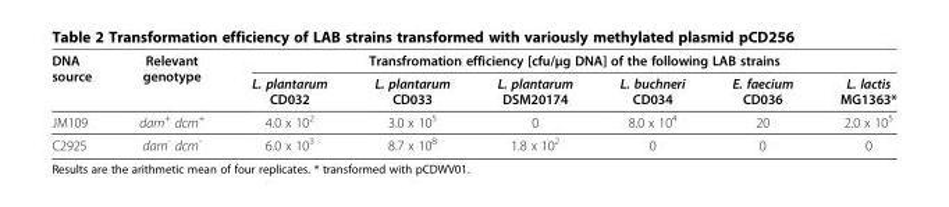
<table><thead><tr><td rowspan="2">DNA source</td><td rowspan="2">Relevant genotype</td><td colspan="6">Transfromation efficiency [cfu/μg DNA] of the following LAB strains</td></tr><tr><td>L. plantarum CD032</td><td>L. plantarum CD033</td><td>L. plantarum DSM20174</td><td>L. buchneri CD034</td><td>E. faecium CD036</td><td>L. lactis MG1363*</td></tr></thead><tbody><tr><td>JM109</td><td>dam<sup>+</sup> dcm<sup>+</sup></td><td>4.0 x 10<sup>2</sup></td><td>3.0 x 10<sup>5</sup></td><td>0</td><td>8.0 x 10<sup>4</sup></td><td>20</td><td>2.0 x 10<sup>5</sup></td></tr><tr><td>C2925</td><td>dam<sup>-</sup> dcm<sup>-</sup></td><td>6.0 x 10<sup>3</sup></td><td>8.7 x 10<sup>8</sup></td><td>1.8 x 10<sup>2</sup></td><td>0</td><td>0</td><td>0</td></tr></tbody></table>